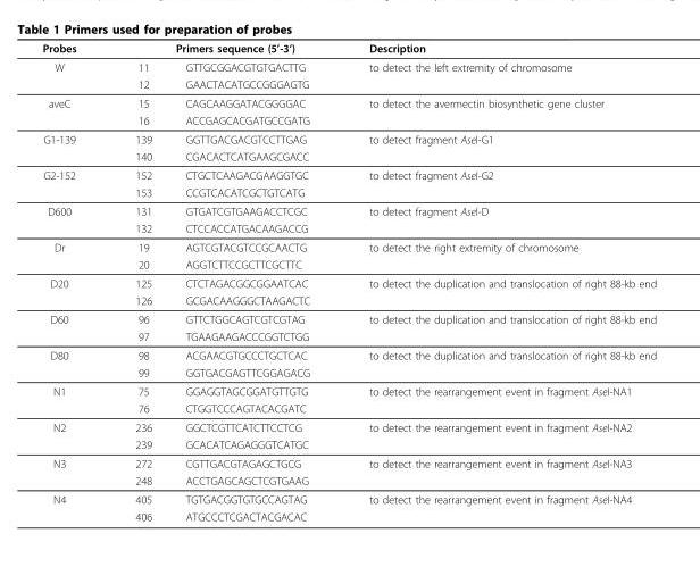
<table><thead><tr><td rowspan="2">Probes W</td><td colspan="2">Primers sequence (5’-3’)</td><td rowspan="2">Description to detect the left extremity of chromosome</td></tr><tr><td>11</td><td>GTTGCGGACGTGTGACTTG</td></tr></thead><tbody><tr><td></td><td>12</td><td>GAACTACATGCCGGGAGTG</td><td></td></tr><tr><td rowspan="2">aveC</td><td>15</td><td>CAGCAAGGATACGGGGAC</td><td>to detect the avermectin biosynthetic gene cluster</td></tr><tr><td>16</td><td>ACCGAGCACGATGCCGATG</td><td></td></tr><tr><td rowspan="2">G1-139</td><td>139</td><td>GGTTGACGACGTCCTTGAG</td><td>to detect fragment AseI-G1</td></tr><tr><td>140</td><td>CGACACTCATGAAGCGACC</td><td></td></tr><tr><td rowspan="2">G2-152</td><td>152</td><td>CTGCTCAAGACGAAGGTGC</td><td>to detect fragment AseI-G2</td></tr><tr><td>153</td><td>CCGTCACATCGCTGTCATG</td><td></td></tr><tr><td rowspan="2">D600</td><td>131</td><td>GTGATCGTGAAGACCTCGC</td><td>to detect fragment AseI-D</td></tr><tr><td>132</td><td>CTCCACCATGACAAGACCG</td><td></td></tr><tr><td rowspan="2">Dr</td><td>19</td><td>AGTCGTACGTCCGCAACTG</td><td>to detect the right extremity of chromosome</td></tr><tr><td>20</td><td>AGGTCTTCCGCTTCGCTTC</td><td></td></tr><tr><td rowspan="2">D20</td><td>125</td><td>CTCTAGACGGCGGAATCAC</td><td>to detect the duplication and translocation of right 88-kb end</td></tr><tr><td>126</td><td>GCGACAAGGGCTAAGACTC</td><td></td></tr><tr><td rowspan="2">D60</td><td>96</td><td>GTTCTGGCAGTCGTCGTAG</td><td>to detect the duplication and translocation of right 88-kb end</td></tr><tr><td>97</td><td>TGAAGAAGACCCGGTCTGG</td><td></td></tr><tr><td rowspan="2">D80</td><td>98</td><td>ACGAACGTGCCCTGCTCAC</td><td>to detect the duplication and translocation of right 88-kb end</td></tr><tr><td>99</td><td>GGTGACGAGTTCGGAGACG</td><td></td></tr><tr><td rowspan="2">N1</td><td>75</td><td>GGAGGTAGCGGATGTTGTG</td><td>to detect the rearrangement event in fragment AseI-NA1</td></tr><tr><td>76</td><td>CTGGTCCCAGTACACGATC</td><td></td></tr><tr><td rowspan="2">N2</td><td>236</td><td>GGCTCGTTCATCTTCCTCG</td><td>to detect the rearrangement event in fragment AseI-NA2</td></tr><tr><td>239</td><td>GCACATCAGAGGGTCATGC</td><td></td></tr><tr><td rowspan="2">N3</td><td>272</td><td>CGTTGACGTAGAGCTGCG</td><td>to detect the rearrangement event in fragment AseI-NA3</td></tr><tr><td>248</td><td>ACCTGAGCAGCTCGTGAAG</td><td></td></tr><tr><td rowspan="2">N4</td><td>405</td><td>TGTGACGGTGTGCCAGTAG</td><td>to detect the rearrangement event in fragment AseI-NA4</td></tr><tr><td>406</td><td>ATGCCCTCGACTACGACAC</td><td></td></tr></tbody></table>